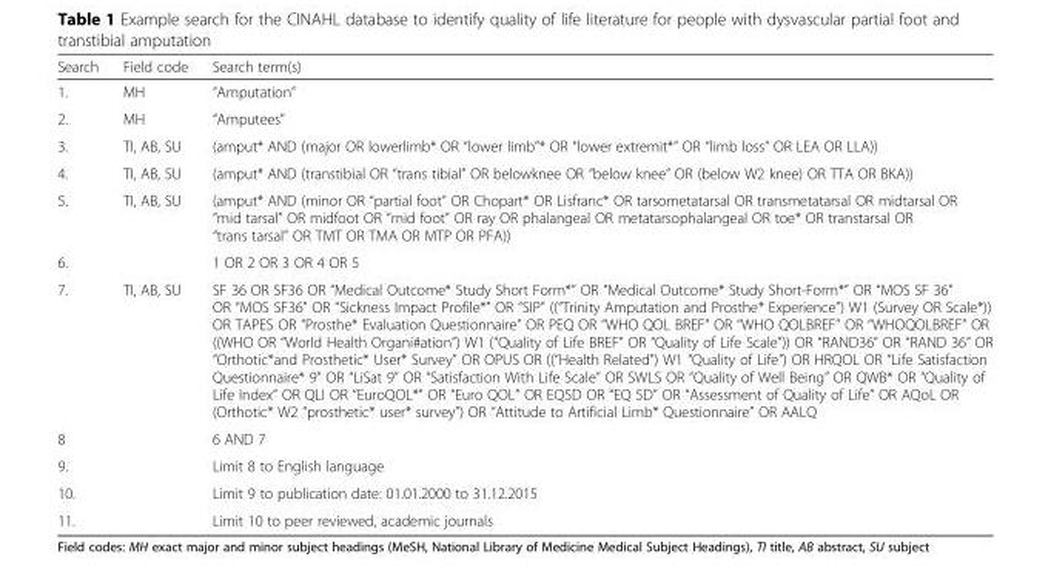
<table><thead><tr><td>Search</td><td>Field code</td><td>Search term(s)</td></tr></thead><tbody><tr><td>1.</td><td>MH</td><td>“Amputation”</td></tr><tr><td>2.</td><td>MH</td><td>“Amputees”</td></tr><tr><td>3.</td><td>TI, AB, SU</td><td>(amput* AND (major OR lowerlimb* OR “lower limb”* OR “lower extremit*” OR “limb loss” OR LEA OR LLA))</td></tr><tr><td>4.</td><td>TI, AB, SU</td><td>(amput* AND (transtibial OR “trans tibial” OR belowknee OR “below knee” OR (below W2 knee) OR TTA OR BKA))</td></tr><tr><td>5.</td><td>TI, AB, SU</td><td>(amput* AND (minor OR “partial foot” OR Chopart* OR Lisfranc* OR tarsometatarsal OR transmetatarsal OR midtarsal OR “mid tarsal” OR midfoot OR “mid foot” OR ray OR phalangeal OR metatarsophalangeal OR toe* OR transtarsal OR “trans tarsal” OR TMT OR TMA OR MTP OR PFA))</td></tr><tr><td>6.</td><td></td><td>1 OR 2 OR 3 OR 4 OR 5</td></tr><tr><td>7.</td><td>TI, AB, SU</td><td>SF 36 OR SF36 OR “Medical Outcome* Study Short Form*” OR “Medical Outcome* Study Short-Form*” OR “MOS SF 36” OR “MOS SF36” OR “Sickness Impact Profile*” OR “SIP” ((“Trinity Amputation and Prosthe* Experience”) W1 (Survey OR Scale*)) OR TAPES OR “Prosthe* Evaluation Questionnaire” OR PEQ OR “WHO QOL BREF” OR “WHO QOLBREF” OR “WHOQOLBREF” OR ((WHO OR “World Health Organi#ation”) W1 (“Quality of Life BREF” OR “Quality of Life Scale”)) OR “RAND36” OR “RAND 36” OR “Orthotic*and Prosthetic* User* Survey” OR OPUS OR ((“Health Related”) W1 “Quality of Life”) OR HRQOL OR “Life Satisfaction Questionnaire* 9” OR “LiSat 9” OR “Satisfaction With Life Scale” OR SWLS OR “Quality of Well Being” OR QWB* OR “Quality of Life Index” OR QLI OR “EuroQOL*” OR “Euro QOL” OR EQ5D OR “EQ 5D” OR “Assessment of Quality of Life” OR AQoL OR (Orthotic* W2 “prosthetic* user* survey”) OR “Attitude to Artificial Limb* Questionnaire” OR AALQ</td></tr><tr><td>8</td><td></td><td>6 AND 7</td></tr><tr><td>9.</td><td></td><td>Limit 8 to English language</td></tr><tr><td>10.</td><td></td><td>Limit 9 to publication date: 01.01.2000 to 31.12.2015</td></tr><tr><td>11.</td><td></td><td>Limit 10 to peer reviewed, academic journals</td></tr></tbody></table>